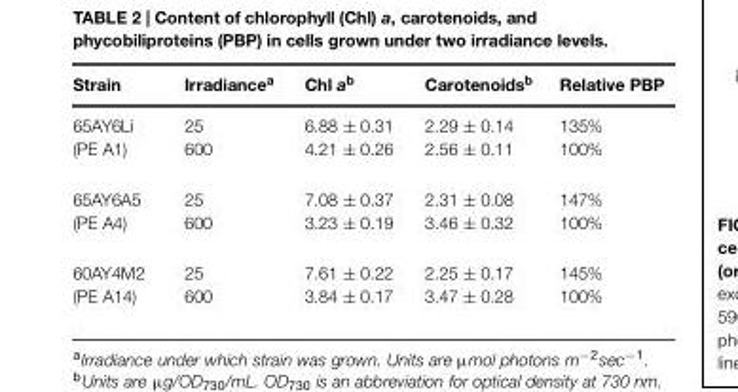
<table><thead><tr><td>Strain</td><td>Irradiance<sup>a</sup></td><td>Chl a<sup>b</sup></td><td>Carotenoids<sup>b</sup></td><td>Relative PBP</td></tr></thead><tbody><tr><td>65AY6Li (PE A1)</td><td>25 600</td><td>6.88 ± 0.31 4.21 ± 0.26</td><td>2.29 ± 0.14 2.56 ± 0.11</td><td>135% 100%</td></tr><tr><td>65AY6A5 (PE A4)</td><td>25 600</td><td>7.08 ± 0.37 3.23 ± 0.19</td><td>2.31 ± 0.08 3.46 ± 0.32</td><td>147% 100%</td></tr><tr><td>60AY4M2 (PE A14)</td><td>25 600</td><td>7.61 ± 0.22 3.84 ± 0.17</td><td>2.25 ± 0.17 3.47 ± 0.28</td><td>145% 100%</td></tr></tbody></table>